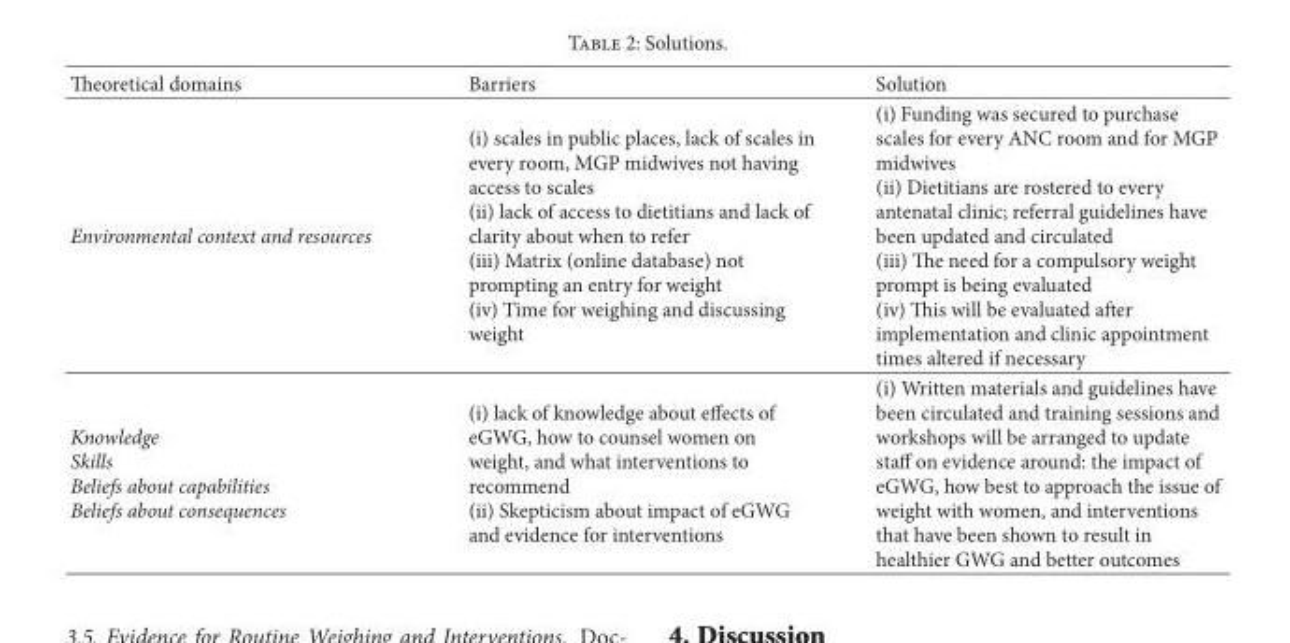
<table><thead><tr><td>Theoretical domains</td><td>Barriers</td><td>Solution</td></tr></thead><tbody><tr><td>Environmental context and resources</td><td>(i) scales in public places, lack of scales in every room, MGP midwives not having access to scales (ii) lack of access to dietitians and lack of clarity about when to refer (iii) Matrix (online database) not prompting an entry for weight (iv) Time for weighing and discussing weight</td><td>(i) Funding was secured to purchase scales for every ANC room and for MGP midwives (ii) Dietitians are rostered to every antenatal clinic; referral guidelines have been updated and circulated (iii) The need for a compulsory weight prompt is being evaluated (iv) This will be evaluated after implementation and clinic appointment times altered if necessary</td></tr><tr><td>Knowledge Skills Beliefs about capabilities Beliefs about consequences</td><td>(i) lack of knowledge about effects of eGWG, how to counsel women on weight, and what interventions to recommend (ii) Skepticism about impact of eGWG and evidence for interventions</td><td>(i) Written materials and guidelines have been circulated and training sessions and workshops will be arranged to update staff on evidence around: the impact of eGWG, how best to approach the issue of weight with women, and interventions that have been shown to result in healthier GWG and better outcomes</td></tr></tbody></table>